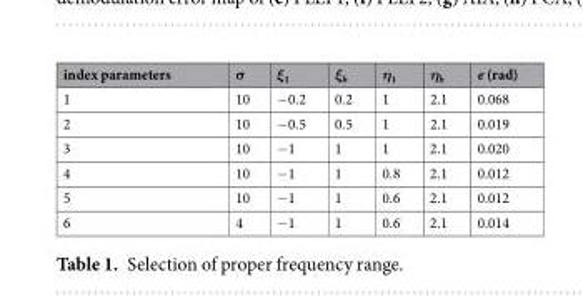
<table><thead><tr><td>index parameters</td><td>σ</td><td>ξ<sub>1</sub></td><td>ξ<sub>h</sub></td><td>η<sub>1</sub></td><td>η<sub>h</sub></td><td>e (rad)</td></tr></thead><tbody><tr><td>1</td><td>10</td><td>−0.2</td><td>0.2</td><td>1</td><td>2.1</td><td>0.068</td></tr><tr><td>2</td><td>10</td><td>−0.5</td><td>0.5</td><td>1</td><td>2.1</td><td>0.019</td></tr><tr><td>3</td><td>10</td><td>−1</td><td>1</td><td>1</td><td>2.1</td><td>0.020</td></tr><tr><td>4</td><td>10</td><td>−1</td><td>1</td><td>0.8</td><td>2.1</td><td>0.012</td></tr><tr><td>5</td><td>10</td><td>−1</td><td>1</td><td>0.6</td><td>2.1</td><td>0.012</td></tr><tr><td>6</td><td>4</td><td>−1</td><td>1</td><td>0.6</td><td>2.1</td><td>0.014</td></tr></tbody></table>